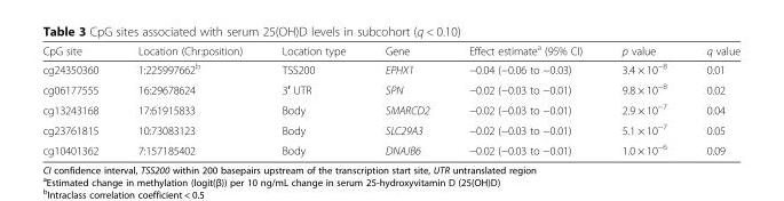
<table><thead><tr><td>CpG site</td><td>Location (Chr:position)</td><td>Location type</td><td>Gene</td><td>Effect estimate<sup>a</sup> (95% CI)</td><td>p value</td><td>q value</td></tr></thead><tbody><tr><td>cg24350360</td><td>1:225997662<sup>b</sup></td><td>TSS200</td><td>EPHX1</td><td>−0.04 (−0.06 to −0.03)</td><td>3.4 × 10<sup>−8</sup></td><td>0.01</td></tr><tr><td>cg06177555</td><td>16:29678624</td><td>3′ UTR</td><td>SPN</td><td>−0.02 (−0.03 to −0.01)</td><td>9.8 × 10<sup>−8</sup></td><td>0.02</td></tr><tr><td>cg13243168</td><td>17:61915833</td><td>Body</td><td>SMARCD2</td><td>−0.02 (−0.03 to −0.01)</td><td>2.9 × 10<sup>−7</sup></td><td>0.04</td></tr><tr><td>cg23761815</td><td>10:73083123</td><td>Body</td><td>SLC29A3</td><td>−0.02 (−0.03 to −0.01)</td><td>5.1 × 10<sup>−7</sup></td><td>0.05</td></tr><tr><td>cg10401362</td><td>7:157185402</td><td>Body</td><td>DNAJB6</td><td>−0.02 (−0.03 to −0.01)</td><td>1.0 × 10<sup>−6</sup></td><td>0.09</td></tr></tbody></table>